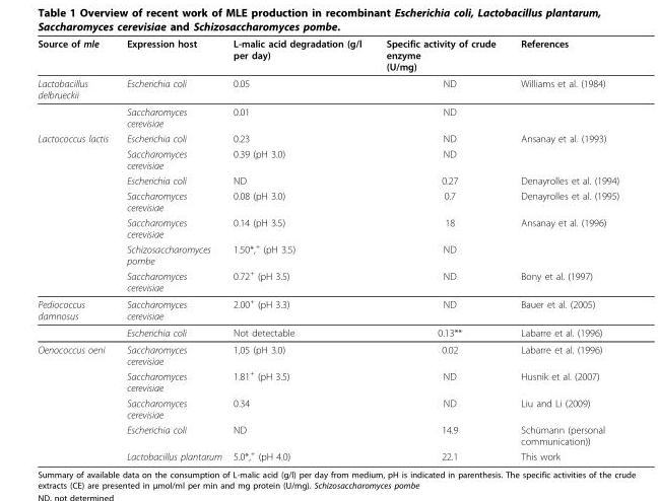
<table><thead><tr><td>Source of mle</td><td>Expression host</td><td>L-malic acid degradation (g/l per day)</td><td>Specific activity of crude enzyme (U/mg)</td><td>References</td></tr></thead><tbody><tr><td rowspan="2">Lactobacillus delbrueckii</td><td>Escherichia coli</td><td>0.05</td><td>ND</td><td>Williams et al. (1984)</td></tr><tr><td>Saccharomyces cerevisiae</td><td>0.01</td><td>ND</td><td></td></tr><tr><td rowspan="7">Lactococcus lactis</td><td>Escherichia coli</td><td>0.23</td><td>ND</td><td>Ansanay et al. (1993)</td></tr><tr><td>Saccharomyces cerevisiae</td><td>0.39 (pH 3.0)</td><td>ND</td><td></td></tr><tr><td>Escherichia coli</td><td>ND</td><td>0.27</td><td>Denayrolles et al. (1994)</td></tr><tr><td>Saccharomyces cerevisiae</td><td>0.08 (pH 3.0)</td><td>0.7</td><td>Denayrolles et al. (1995)</td></tr><tr><td>Saccharomyces cerevisiae</td><td>0.14 (pH 3.5)</td><td>18</td><td>Ansanay et al. (1996)</td></tr><tr><td>Schizosaccharomyces pombe</td><td>1.50*,<sup>+</sup> (pH 3.5)</td><td>ND</td><td></td></tr><tr><td>Saccharomyces cerevisiae</td><td>0.72<sup>+</sup> (pH 3.5)</td><td>ND</td><td>Bony et al. (1997)</td></tr><tr><td rowspan="2">Pediococcus damnosus</td><td>Saccharomyces cerevisiae</td><td>2.00<sup>+</sup> (pH 3.3)</td><td>ND</td><td>Bauer et al. (2005)</td></tr><tr><td>Escherichia coli</td><td>Not detectable</td><td>0.13**</td><td>Labarre et al. (1996)</td></tr><tr><td rowspan="5">Oenococcus oeni</td><td>Saccharomyces cerevisiae</td><td>1,05 (pH 3.0)</td><td>0.02</td><td>Labarre et al. (1996)</td></tr><tr><td>Saccharomyces cerevisiae</td><td>1.81<sup>+</sup> (pH 3.5)</td><td>ND</td><td>Husnik et al. (2007)</td></tr><tr><td>Saccharomyces cerevisiae</td><td>0.34</td><td>ND</td><td>Liu and Li (2009)</td></tr><tr><td>Escherichia coli</td><td>ND</td><td>14.9</td><td>Schümann (personal communication))</td></tr><tr><td>Lactobacillus plantarum</td><td>5.0*,<sup>+</sup> (pH 4.0)</td><td>22.1</td><td>This work</td></tr></tbody></table>